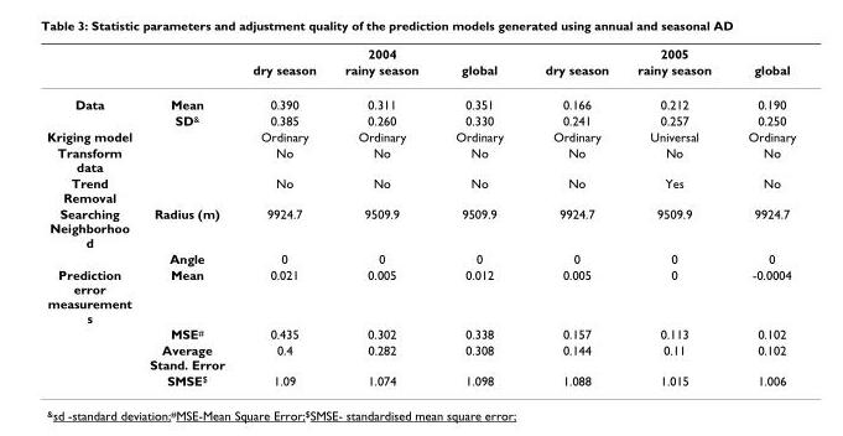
<table><thead><tr><td rowspan="2"></td><td rowspan="2"></td><td colspan="3">2004</td><td colspan="3">2005</td></tr><tr><td>dry season</td><td>rainy season</td><td>global</td><td>dry season</td><td>rainy season</td><td>global</td></tr></thead><tbody><tr><td rowspan="2">Data</td><td>Mean</td><td>0.390</td><td>0.311</td><td>0.351</td><td>0.166</td><td>0.212</td><td>0.190</td></tr><tr><td>SD<sup>&amp;</sup></td><td>0.385</td><td>0.260</td><td>0.330</td><td>0.241</td><td>0.257</td><td>0.250</td></tr><tr><td>Kriging model</td><td></td><td>Ordinary</td><td>Ordinary</td><td>Ordinary</td><td>Ordinary</td><td>Universal</td><td>Ordinary</td></tr><tr><td>Transform data</td><td></td><td>No</td><td>No</td><td>No</td><td>No</td><td>No</td><td>No</td></tr><tr><td>Trend Removal</td><td></td><td>No</td><td>No</td><td>No</td><td>No</td><td>Yes</td><td>No</td></tr><tr><td rowspan="2">Searching Neighborhoo d</td><td>Radius (m)</td><td>9924.7</td><td>9509.9</td><td>9509.9</td><td>9924.7</td><td>9509.9</td><td>9924.7</td></tr><tr><td>Angle</td><td>0</td><td>0</td><td>0</td><td>0</td><td>0</td><td>0</td></tr><tr><td rowspan="4">Prediction error measurement s</td><td>Mean</td><td>0.021</td><td>0.005</td><td>0.012</td><td>0.005</td><td>0</td><td>-0.0004</td></tr><tr><td>MSE<sup>#</sup></td><td>0.435</td><td>0.302</td><td>0.338</td><td>0.157</td><td>0.113</td><td>0.102</td></tr><tr><td>Average Stand. Error</td><td>0.4</td><td>0.282</td><td>0.308</td><td>0.144</td><td>0.11</td><td>0.102</td></tr><tr><td>SMSE<sup>$</sup></td><td>1.09</td><td>1.074</td><td>1.098</td><td>1.088</td><td>1.015</td><td>1.006</td></tr></tbody></table>